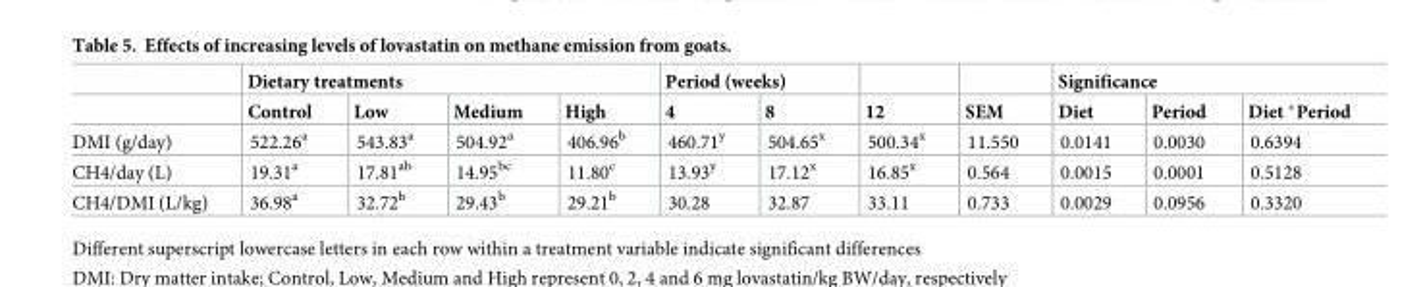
<table><thead><tr><td rowspan="2"></td><td colspan="4">Dietary treatments</td><td colspan="2">Period (weeks)</td><td rowspan="2">12</td><td rowspan="2">SEM</td><td colspan="3">Significance</td></tr><tr><td>Control</td><td>Low</td><td>Medium</td><td>High</td><td>4</td><td>8</td><td>Diet</td><td>Period</td><td>Diet *Period</td></tr></thead><tbody><tr><td>DMI (g/day)</td><td>522.26<sup>a</sup></td><td>543.83<sup>a</sup></td><td>504.92<sup>a</sup></td><td>406.96<sup>b</sup></td><td>460.71<sup>y</sup></td><td>504.65<sup>x</sup></td><td>500.34<sup>x</sup></td><td>11.550</td><td>0.0141</td><td>0.0030</td><td>0.6394</td></tr><tr><td>CH4/day (L)</td><td>19.31<sup>a</sup></td><td>17.81<sup>ab</sup></td><td>14.95<sup>bc</sup></td><td>11.80<sup>c</sup></td><td>13.93<sup>y</sup></td><td>17.12<sup>x</sup></td><td>16.85<sup>x</sup></td><td>0.564</td><td>0.0015</td><td>0.0001</td><td>0.5128</td></tr><tr><td>CH4/DMI (L/kg)</td><td>36.98<sup>a</sup></td><td>32.72<sup>b</sup></td><td>29.43<sup>b</sup></td><td>29.21<sup>b</sup></td><td>30.28</td><td>32.87</td><td>33.11</td><td>0.733</td><td>0.0029</td><td>0.0956</td><td>0.3320</td></tr></tbody></table>